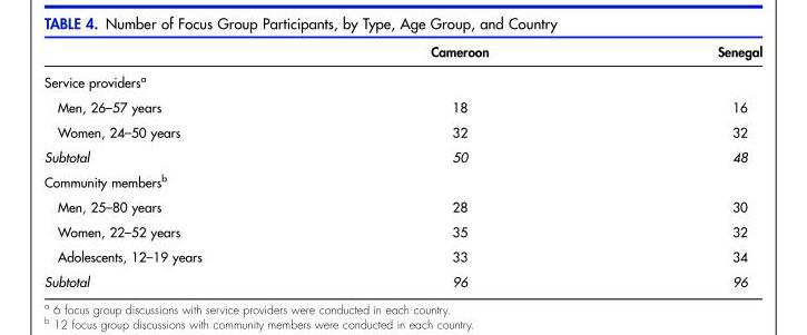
<table><thead><tr><td></td><td>Cameroon</td><td>Senegal</td></tr></thead><tbody><tr><td colspan="3">Service providers<sup>a</sup></td></tr><tr><td>Men, 26–57 years</td><td>18</td><td>16</td></tr><tr><td>Women, 24–50 years</td><td>32</td><td>32</td></tr><tr><td>Subtotal</td><td>50</td><td>48</td></tr><tr><td colspan="3">Community members<sup>b</sup></td></tr><tr><td>Men, 25–80 years</td><td>28</td><td>30</td></tr><tr><td>Women, 22–52 years</td><td>35</td><td>32</td></tr><tr><td>Adolescents, 12–19 years</td><td>33</td><td>34</td></tr><tr><td>Subtotal</td><td>96</td><td>96</td></tr></tbody></table>